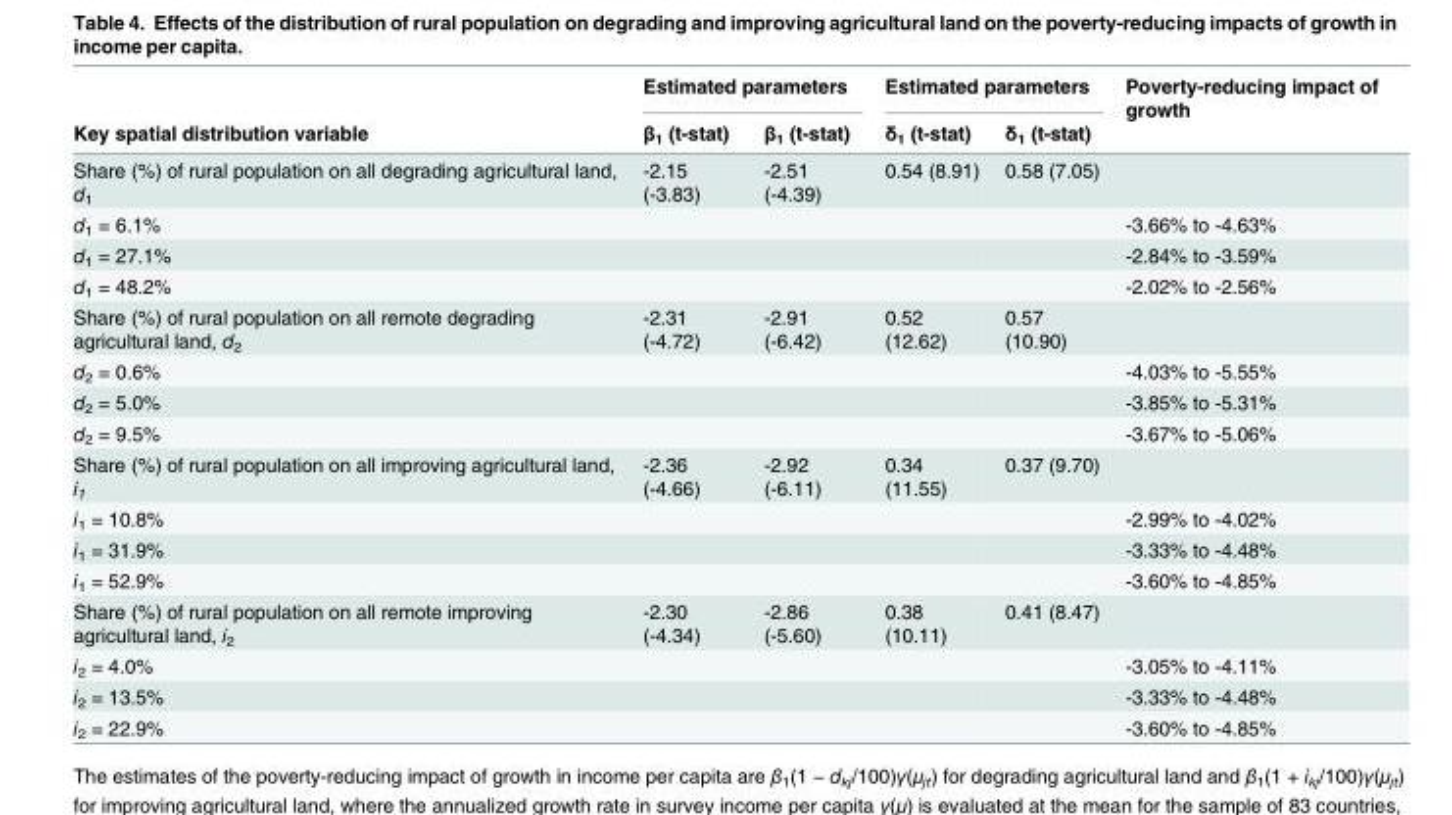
<table><thead><tr><td rowspan="2">Key spatial distribution variable</td><td colspan="2">Estimated parameters</td><td colspan="2">Estimated parameters</td><td rowspan="2">Poverty-reducing impact of growth</td></tr><tr><td>β<sub>1</sub> (t-stat)</td><td>β<sub>1</sub> (t-stat)</td><td>δ<sub>1</sub> (t-stat)</td><td>δ<sub>1</sub> (t-stat)</td></tr></thead><tbody><tr><td>Share (%) of rural population on all degrading agricultural land, d<sub>1</sub></td><td>-2.15 (-3.83)</td><td>-2.51 (-4.39)</td><td>0.54 (8.91)</td><td>0.58 (7.05)</td><td></td></tr><tr><td>d<sub>1</sub> = 6.1%</td><td></td><td></td><td></td><td></td><td>-3.66% to -4.63%</td></tr><tr><td>d<sub>1</sub> = 27.1%</td><td></td><td></td><td></td><td></td><td>-2.84% to -3.59%</td></tr><tr><td>d<sub>1</sub> = 48.2%</td><td></td><td></td><td></td><td></td><td>-2.02% to -2.56%</td></tr><tr><td>Share (%) of rural population on all remote degrading agricultural land, d<sub>2</sub></td><td>-2.31 (-4.72)</td><td>-2.91 (-6.42)</td><td>0.52 (12.62)</td><td>0.57 (10.90)</td><td></td></tr><tr><td>d<sub>2</sub> = 0.6%</td><td></td><td></td><td></td><td></td><td>-4.03% to -5.55%</td></tr><tr><td>d<sub>2</sub> = 5.0%</td><td></td><td></td><td></td><td></td><td>-3.85% to -5.31%</td></tr><tr><td>d<sub>2</sub> = 9.5%</td><td></td><td></td><td></td><td></td><td>-3.67% to -5.06%</td></tr><tr><td>Share (%) of rural population on all improving agricultural land, i<sub>1</sub></td><td>-2.36 (-4.66)</td><td>-2.92 (-6.11)</td><td>0.34 (11.55)</td><td>0.37 (9.70)</td><td></td></tr><tr><td>i<sub>1</sub> = 10.8%</td><td></td><td></td><td></td><td></td><td>-2.99% to -4.02%</td></tr><tr><td>i<sub>1</sub> = 31.9%</td><td></td><td></td><td></td><td></td><td>-3.33% to -4.48%</td></tr><tr><td>i<sub>1</sub> = 52.9%</td><td></td><td></td><td></td><td></td><td>-3.60% to -4.85%</td></tr><tr><td>Share (%) of rural population on all remote improving agricultural land, i<sub>2</sub></td><td>-2.30 (-4.34)</td><td>-2.86 (-5.60)</td><td>0.38 (10.11)</td><td>0.41 (8.47)</td><td></td></tr><tr><td>i<sub>2</sub> = 4.0%</td><td></td><td></td><td></td><td></td><td>-3.05% to -4.11%</td></tr><tr><td>i<sub>2</sub> = 13.5%</td><td></td><td></td><td></td><td></td><td>-3.33% to -4.48%</td></tr><tr><td>i<sub>2</sub> = 22.9%</td><td></td><td></td><td></td><td></td><td>-3.60% to -4.85%</td></tr></tbody></table>